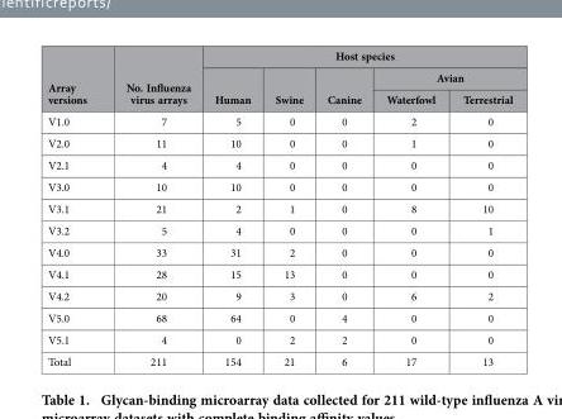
<table><thead><tr><td rowspan="3">Array versions</td><td rowspan="3">No. Influenza virus arrays</td><td colspan="5">Host species</td></tr><tr><td rowspan="2">Human</td><td rowspan="2">Swine</td><td rowspan="2">Canine</td><td colspan="2">Avian</td></tr><tr><td>Waterfowl</td><td>Terrestrial</td></tr></thead><tbody><tr><td>V1.0</td><td>7</td><td>5</td><td>0</td><td>0</td><td>2</td><td>0</td></tr><tr><td>V2.0</td><td>11</td><td>10</td><td>0</td><td>0</td><td>1</td><td>0</td></tr><tr><td>V2.1</td><td>4</td><td>4</td><td>0</td><td>0</td><td>0</td><td>0</td></tr><tr><td>V3.0</td><td>10</td><td>10</td><td>0</td><td>0</td><td>0</td><td>0</td></tr><tr><td>V3.1</td><td>21</td><td>2</td><td>1</td><td>0</td><td>8</td><td>10</td></tr><tr><td>V3.2</td><td>5</td><td>4</td><td>0</td><td>0</td><td>0</td><td>1</td></tr><tr><td>V4.0</td><td>33</td><td>31</td><td>2</td><td>0</td><td>0</td><td>0</td></tr><tr><td>V4.1</td><td>28</td><td>15</td><td>13</td><td>0</td><td>0</td><td>0</td></tr><tr><td>V4.2</td><td>20</td><td>9</td><td>3</td><td>0</td><td>6</td><td>2</td></tr><tr><td>V5.0</td><td>68</td><td>64</td><td>0</td><td>4</td><td>0</td><td>0</td></tr><tr><td>V5.1</td><td>4</td><td>0</td><td>2</td><td>2</td><td>0</td><td>0</td></tr><tr><td>Total</td><td>211</td><td>154</td><td>21</td><td>6</td><td>17</td><td>13</td></tr></tbody></table>